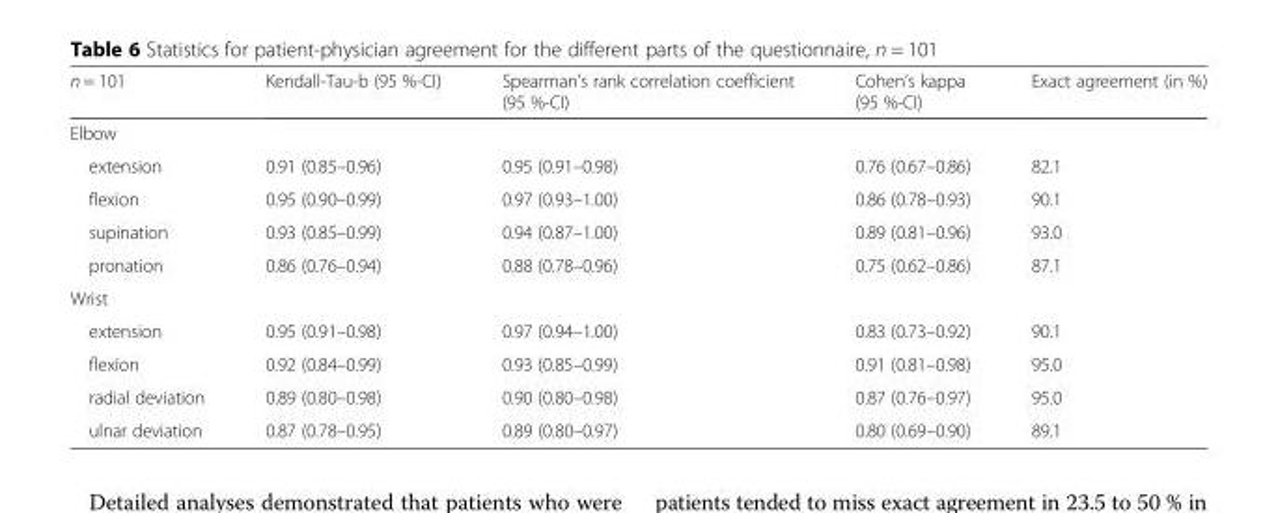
<table><thead><tr><td>n = 101</td><td>Kendall-Tau-b (95 %-CI)</td><td>Spearman’s rank correlation coefficient (95 %-CI)</td><td>Cohen’s kappa (95 %-CI)</td><td>Exact agreement (in %)</td></tr></thead><tbody><tr><td colspan="5">Elbow</td></tr><tr><td>extension</td><td>0.91 (0.85–0.96)</td><td>0.95 (0.91–0.98)</td><td>0.76 (0.67–0.86)</td><td>82.1</td></tr><tr><td>flexion</td><td>0.95 (0.90–0.99)</td><td>0.97 (0.93–1.00)</td><td>0.86 (0.78–0.93)</td><td>90.1</td></tr><tr><td>supination</td><td>0.93 (0.85–0.99)</td><td>0.94 (0.87–1.00)</td><td>0.89 (0.81–0.96)</td><td>93.0</td></tr><tr><td>pronation</td><td>0.86 (0.76–0.94)</td><td>0.88 (0.78–0.96)</td><td>0.75 (0.62–0.86)</td><td>87.1</td></tr><tr><td colspan="5">Wrist</td></tr><tr><td>extension</td><td>0.95 (0.91–0.98)</td><td>0.97 (0.94–1.00)</td><td>0.83 (0.73–0.92)</td><td>90.1</td></tr><tr><td>flexion</td><td>0.92 (0.84–0.99)</td><td>0.93 (0.85–0.99)</td><td>0.91 (0.81–0.98)</td><td>95.0</td></tr><tr><td>radial deviation</td><td>0.89 (0.80–0.98)</td><td>0.90 (0.80–0.98)</td><td>0.87 (0.76–0.97)</td><td>95.0</td></tr><tr><td>ulnar deviation</td><td>0.87 (0.78–0.95)</td><td>0.89 (0.80–0.97)</td><td>0.80 (0.69–0.90)</td><td>89.1</td></tr></tbody></table>